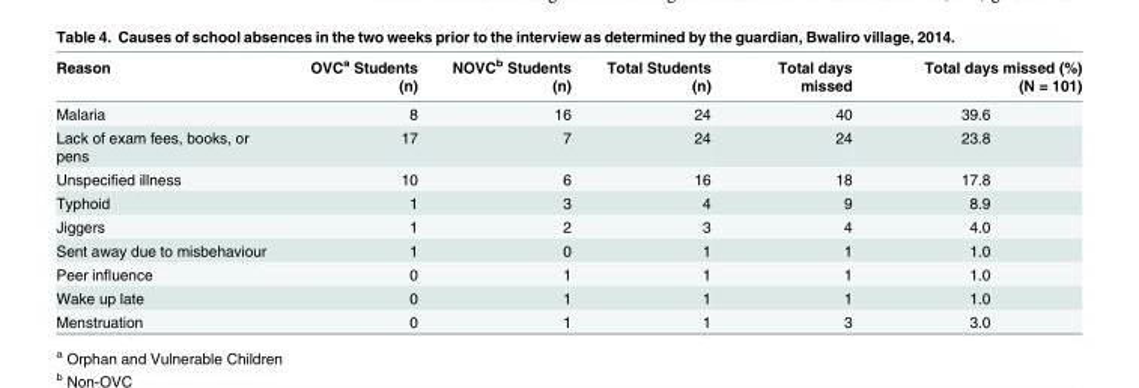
<table><thead><tr><td>Reason</td><td>OVC<sup>a</sup> Students (n)</td><td>NOVC<sup>b</sup> Students (n)</td><td>Total Students (n)</td><td>Total days missed</td><td>Total days missed (%) (N = 101)</td></tr></thead><tbody><tr><td>Malaria</td><td>8</td><td>16</td><td>24</td><td>40</td><td>39.6</td></tr><tr><td>Lack of exam fees, books, or pens</td><td>17</td><td>7</td><td>24</td><td>24</td><td>23.8</td></tr><tr><td>Unspecified illness</td><td>10</td><td>6</td><td>16</td><td>18</td><td>17.8</td></tr><tr><td>Typhoid</td><td>1</td><td>3</td><td>4</td><td>9</td><td>8.9</td></tr><tr><td>Jiggers</td><td>1</td><td>2</td><td>3</td><td>4</td><td>4.0</td></tr><tr><td>Sent away due to misbehaviour</td><td>1</td><td>0</td><td>1</td><td>1</td><td>1.0</td></tr><tr><td>Peer influence</td><td>0</td><td>1</td><td>1</td><td>1</td><td>1.0</td></tr><tr><td>Wake up late</td><td>0</td><td>1</td><td>1</td><td>1</td><td>1.0</td></tr><tr><td>Menstruation</td><td>0</td><td>1</td><td>1</td><td>3</td><td>3.0</td></tr></tbody></table>